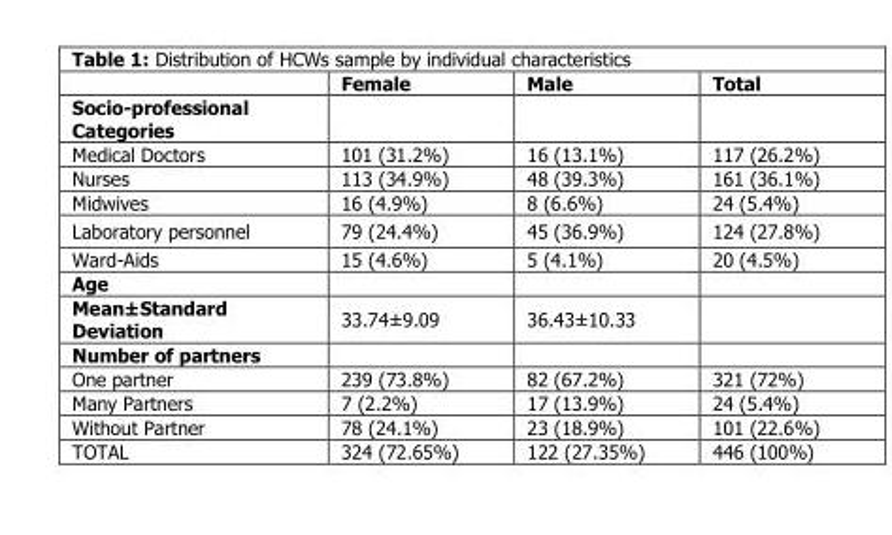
<table><thead><tr><td></td><td>Female</td><td>Male</td><td>Total</td></tr></thead><tbody><tr><td colspan="4">Socio-professional Categories</td></tr><tr><td>Medical Doctors</td><td>101 (31.2%)</td><td>16 (13.1%)</td><td>117 (26.2%)</td></tr><tr><td>Nurses</td><td>113 (34.9%)</td><td>48 (39.3%)</td><td>161 (36.1%)</td></tr><tr><td>Midwives</td><td>16 (4.9%)</td><td>8 (6.6%)</td><td>24 (5.4%)</td></tr><tr><td>Laboratory personnel</td><td>79 (24.4%)</td><td>45 (36.9%)</td><td>124 (27.8%)</td></tr><tr><td>Ward-Aids</td><td>15 (4.6%)</td><td>5 (4.1%)</td><td>20 (4.5%)</td></tr><tr><td colspan="4">Age</td></tr><tr><td>Mean±Standard Deviation</td><td>33.74±9.09</td><td>36.43±10.33</td><td></td></tr><tr><td colspan="4">Number of partners</td></tr><tr><td>One partner</td><td>239 (73.8%)</td><td>82 (67.2%)</td><td>321 (72%)</td></tr><tr><td>Many Partners</td><td>7 (2.2%)</td><td>17 (13.9%)</td><td>24 (5.4%)</td></tr><tr><td>Without Partner</td><td>78 (24.1%)</td><td>23 (18.9%)</td><td>101 (22.6%)</td></tr><tr><td>TOTAL</td><td>324 (72.65%)</td><td>122 (27.35%)</td><td>446 (100%)</td></tr></tbody></table>